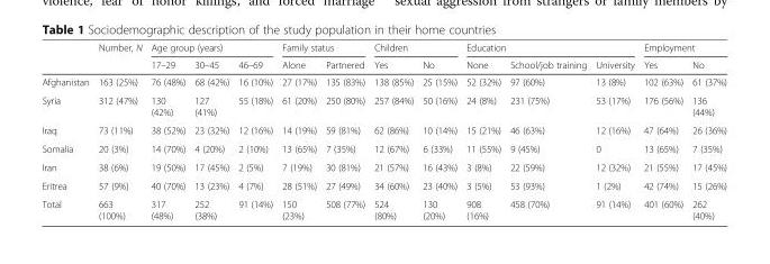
<table><thead><tr><td rowspan="2"></td><td rowspan="2">Number, N</td><td colspan="3">Age group (years)</td><td colspan="2">Family status</td><td colspan="2">Children</td><td colspan="3">Education</td><td colspan="2">Employment</td></tr><tr><td>17–29</td><td>30–45</td><td>46–69</td><td>Alone</td><td>Partnered</td><td>Yes</td><td>No</td><td>None</td><td>School/job training</td><td>University</td><td>Yes</td><td>No</td></tr></thead><tbody><tr><td>Afghanistan</td><td>163 (25%)</td><td>76 (48%)</td><td>68 (42%)</td><td>16 (10%)</td><td>27 (17%)</td><td>135 (83%)</td><td>138 (85%)</td><td>25 (15%)</td><td>52 (32%)</td><td>97 (60%)</td><td>13 (8%)</td><td>102 (63%)</td><td>61 (37%)</td></tr><tr><td>Syria</td><td>312 (47%)</td><td>130 (42%)</td><td>127 (41%)</td><td>55 (18%)</td><td>61 (20%)</td><td>250 (80%)</td><td>257 (84%)</td><td>50 (16%)</td><td>24 (8%)</td><td>231 (75%)</td><td>53 (17%)</td><td>176 (56%)</td><td>136 (44%)</td></tr><tr><td>Iraq</td><td>73 (11%)</td><td>38 (52%)</td><td>23 (32%)</td><td>12 (16%)</td><td>14 (19%)</td><td>59 (81%)</td><td>62 (86%)</td><td>10 (14%)</td><td>15 (21%)</td><td>46 (63%)</td><td>12 (16%)</td><td>47 (64%)</td><td>26 (36%)</td></tr><tr><td>Somalia</td><td>20 (3%)</td><td>14 (70%)</td><td>4 (20%)</td><td>2 (10%)</td><td>13 (65%)</td><td>7 (35%)</td><td>12 (67%)</td><td>6 (33%)</td><td>11 (55%)</td><td>9 (45%)</td><td>0</td><td>13 (65%)</td><td>7 (35%)</td></tr><tr><td>Iran</td><td>38 (6%)</td><td>19 (50%)</td><td>17 (45%)</td><td>2 (5%)</td><td>7 (19%)</td><td>30 (81%)</td><td>21 (57%)</td><td>16 (43%)</td><td>3 (8%)</td><td>22 (59%)</td><td>12 (32%)</td><td>21 (55%)</td><td>17 (45%)</td></tr><tr><td>Eritrea</td><td>57 (9%)</td><td>40 (70%)</td><td>13 (23%)</td><td>4 (7%)</td><td>28 (51%)</td><td>27 (49%)</td><td>34 (60%)</td><td>23 (40%)</td><td>3 (5%)</td><td>53 (93%)</td><td>1 (2%)</td><td>42 (74%)</td><td>15 (26%)</td></tr><tr><td>Total</td><td>663 (100%)</td><td>317 (48%)</td><td>252 (38%)</td><td>91 (14%)</td><td>150 (23%)</td><td>508 (77%)</td><td>524 (80%)</td><td>130 (20%)</td><td>908 (16%)</td><td>458 (70%)</td><td>91 (14%)</td><td>401 (60%)</td><td>262 (40%)</td></tr></tbody></table>